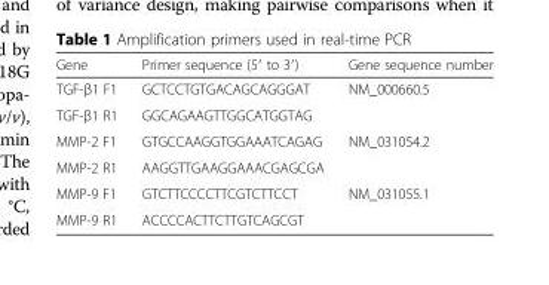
<table><thead><tr><td>Gene</td><td>Primer sequence (5′ to 3′)</td><td>Gene sequence number</td></tr></thead><tbody><tr><td>TGF-β1 F1</td><td>GCTCCTGTGACAGCAGGGAT</td><td rowspan="2">NM_000660.5</td></tr><tr><td>TGF-β1 R1</td><td>GGCAGAAGTTGGCATGGTAG</td></tr><tr><td>MMP-2 F1</td><td>GTGCCAAGGTGGAAATCAGAG</td><td rowspan="2">NM_031054.2</td></tr><tr><td>MMP-2 R1</td><td>AAGGTTGAAGGAAACGAGCGA</td></tr><tr><td>MMP-9 F1</td><td>GTCTTCCCCTTCGTCTTCCT</td><td rowspan="2">NM_031055.1</td></tr><tr><td>MMP-9 R1</td><td>ACCCCACTTCTTGTCAGCGT</td></tr></tbody></table>